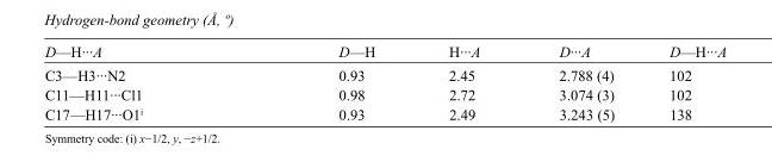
<table><tbody><tr><td>D—H···A</td><td>D—H</td><td>H···A</td><td>D···A</td><td>D—H···A</td></tr><tr><td>C3—H3···N2</td><td>0.93</td><td>2.45</td><td>2.788 (4)</td><td>102</td></tr><tr><td>C11—H11···Cl1</td><td>0.98</td><td>2.72</td><td>3.074 (3)</td><td>102</td></tr><tr><td>C17—H17···O1<sup>i</sup></td><td>0.93</td><td>2.49</td><td>3.243 (5)</td><td>138</td></tr></tbody></table>